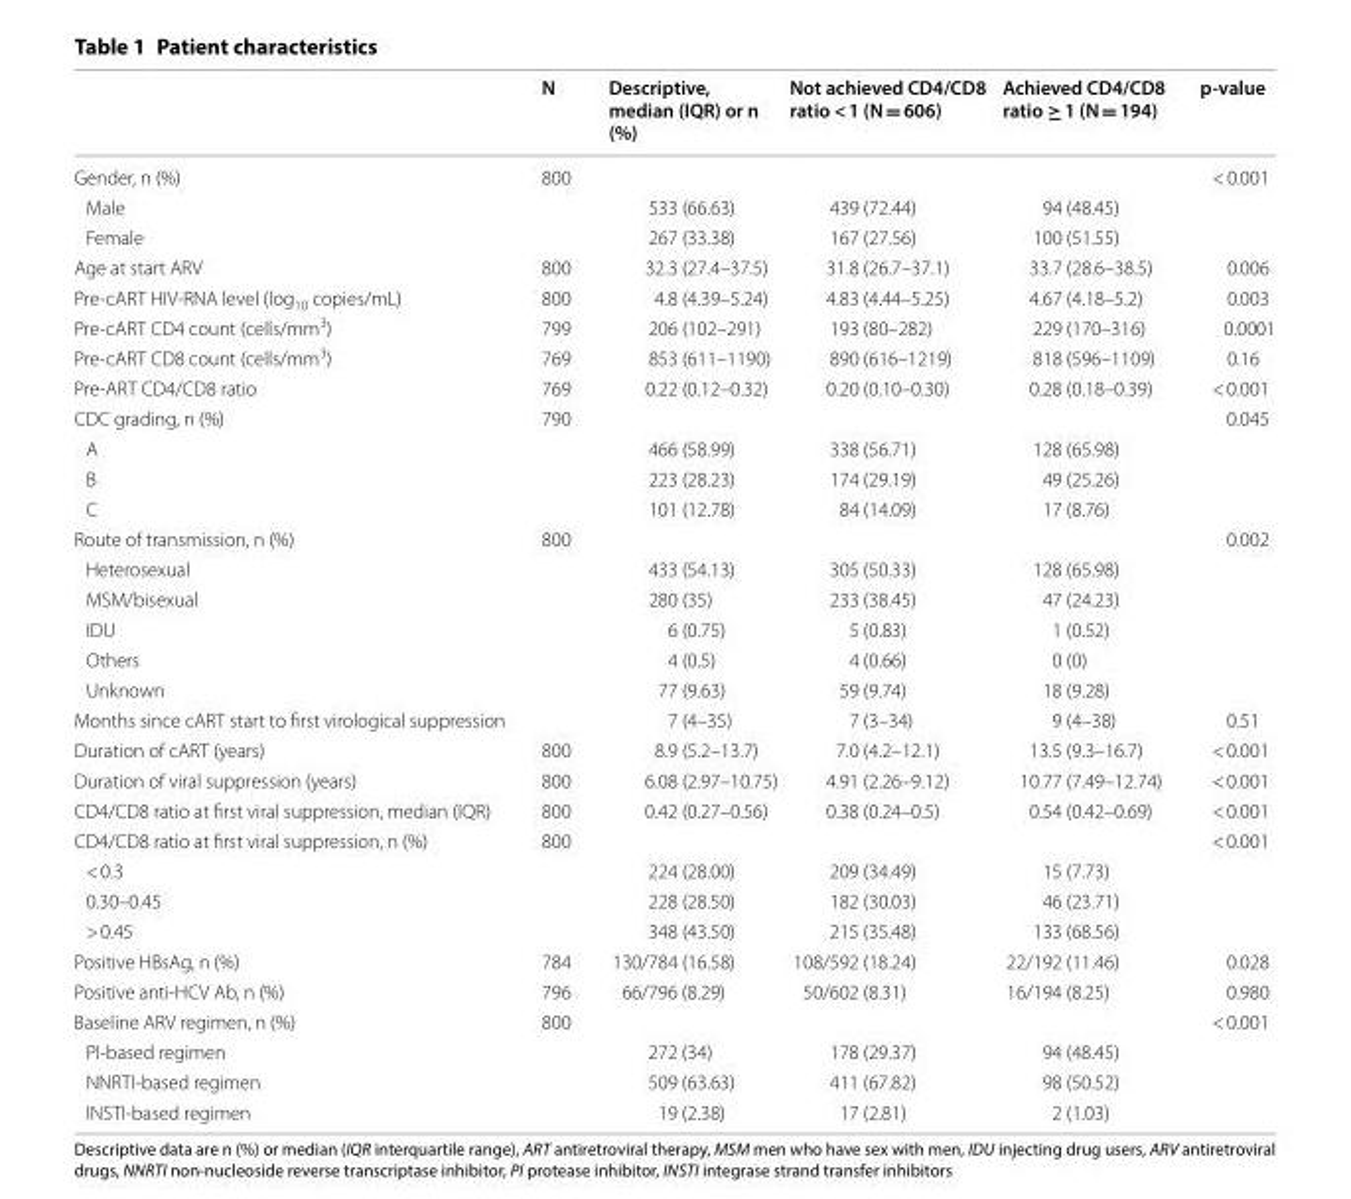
<table><thead><tr><td></td><td>N</td><td>Descriptive, median (IQR) or n (%)</td><td>Not achieved CD4/CD8 ratio &lt; 1 (N = 606)</td><td>Achieved CD4/CD8 ratio ≥ 1 (N = 194)</td><td>p‑value</td></tr></thead><tbody><tr><td>Gender, n (%)</td><td>800</td><td></td><td></td><td></td><td>&lt; 0.001</td></tr><tr><td>Male</td><td></td><td>533 (66.63)</td><td>439 (72.44)</td><td>94 (48.45)</td><td></td></tr><tr><td>Female</td><td></td><td>267 (33.38)</td><td>167 (27.56)</td><td>100 (51.55)</td><td></td></tr><tr><td>Age at start ARV</td><td>800</td><td>32.3 (27.4–37.5)</td><td>31.8 (26.7–37.1)</td><td>33.7 (28.6–38.5)</td><td>0.006</td></tr><tr><td>Pre-cART HIV-RNA level (log<sub>10</sub> copies/mL)</td><td>800</td><td>4.8 (4.39–5.24)</td><td>4.83 (4.44–5.25)</td><td>4.67 (4.18–5.2)</td><td>0.003</td></tr><tr><td>Pre-cART CD4 count (cells/mm<sup>3</sup>)</td><td>799</td><td>206 (102–291)</td><td>193 (80–282)</td><td>229 (170–316)</td><td>0.0001</td></tr><tr><td>Pre-cART CD8 count (cells/mm<sup>3</sup>)</td><td>769</td><td>853 (611–1190)</td><td>890 (616–1219)</td><td>818 (596–1109)</td><td>0.16</td></tr><tr><td>Pre-ART CD4/CD8 ratio</td><td>769</td><td>0.22 (0.12–0.32)</td><td>0.20 (0.10–0.30)</td><td>0.28 (0.18–0.39)</td><td>&lt; 0.001</td></tr><tr><td>CDC grading, n (%)</td><td>790</td><td></td><td></td><td></td><td>0.045</td></tr><tr><td>A</td><td></td><td>466 (58.99)</td><td>338 (56.71)</td><td>128 (65.98)</td><td></td></tr><tr><td>B</td><td></td><td>223 (28.23)</td><td>174 (29.19)</td><td>49 (25.26)</td><td></td></tr><tr><td>C</td><td></td><td>101 (12.78)</td><td>84 (14.09)</td><td>17 (8.76)</td><td></td></tr><tr><td>Route of transmission, n (%)</td><td>800</td><td></td><td></td><td></td><td>0.002</td></tr><tr><td>Heterosexual</td><td></td><td>433 (54.13)</td><td>305 (50.33)</td><td>128 (65.98)</td><td></td></tr><tr><td>MSM/bisexual</td><td></td><td>280 (35)</td><td>233 (38.45)</td><td>47 (24.23)</td><td></td></tr><tr><td>IDU</td><td></td><td>6 (0.75)</td><td>5 (0.83)</td><td>1 (0.52)</td><td></td></tr><tr><td>Others</td><td></td><td>4 (0.5)</td><td>4 (0.66)</td><td>0 (0)</td><td></td></tr><tr><td>Unknown</td><td></td><td>77 (9.63)</td><td>59 (9.74)</td><td>18 (9.28)</td><td></td></tr><tr><td>Months since cART start to first virological suppression</td><td></td><td>7 (4–35)</td><td>7 (3–34)</td><td>9 (4–38)</td><td>0.51</td></tr><tr><td>Duration of cART (years)</td><td>800</td><td>8.9 (5.2–13.7)</td><td>7.0 (4.2–12.1)</td><td>13.5 (9.3–16.7)</td><td>&lt; 0.001</td></tr><tr><td>Duration of viral suppression (years)</td><td>800</td><td>6.08 (2.97–10.75)</td><td>4.91 (2.26–9.12)</td><td>10.77 (7.49–12.74)</td><td>&lt; 0.001</td></tr><tr><td>CD4/CD8 ratio at first viral suppression, median (IQR)</td><td>800</td><td>0.42 (0.27–0.56)</td><td>0.38 (0.24–0.5)</td><td>0.54 (0.42–0.69)</td><td>&lt; 0.001</td></tr><tr><td>CD4/CD8 ratio at first viral suppression, n (%)</td><td>800</td><td></td><td></td><td></td><td>&lt; 0.001</td></tr><tr><td>&lt; 0.3</td><td></td><td>224 (28.00)</td><td>209 (34.49)</td><td>15 (7.73)</td><td></td></tr><tr><td>0.30–0.45</td><td></td><td>228 (28.50)</td><td>182 (30.03)</td><td>46 (23.71)</td><td></td></tr><tr><td>&gt; 0.45</td><td></td><td>348 (43.50)</td><td>215 (35.48)</td><td>133 (68.56)</td><td></td></tr><tr><td>Positive HBsAg, n (%)</td><td>784</td><td>130/784 (16.58)</td><td>108/592 (18.24)</td><td>22/192 (11.46)</td><td>0.028</td></tr><tr><td>Positive anti-HCV Ab, n (%)</td><td>796</td><td>66/796 (8.29)</td><td>50/602 (8.31)</td><td>16/194 (8.25)</td><td>0.980</td></tr><tr><td>Baseline ARV regimen, n (%)</td><td>800</td><td></td><td></td><td></td><td>&lt; 0.001</td></tr><tr><td>PI-based regimen</td><td></td><td>272 (34)</td><td>178 (29.37)</td><td>94 (48.45)</td><td></td></tr><tr><td>NNRTI-based regimen</td><td></td><td>509 (63.63)</td><td>411 (67.82)</td><td>98 (50.52)</td><td></td></tr><tr><td>INSTI-based regimen</td><td></td><td>19 (2.38)</td><td>17 (2.81)</td><td>2 (1.03)</td><td></td></tr></tbody></table>